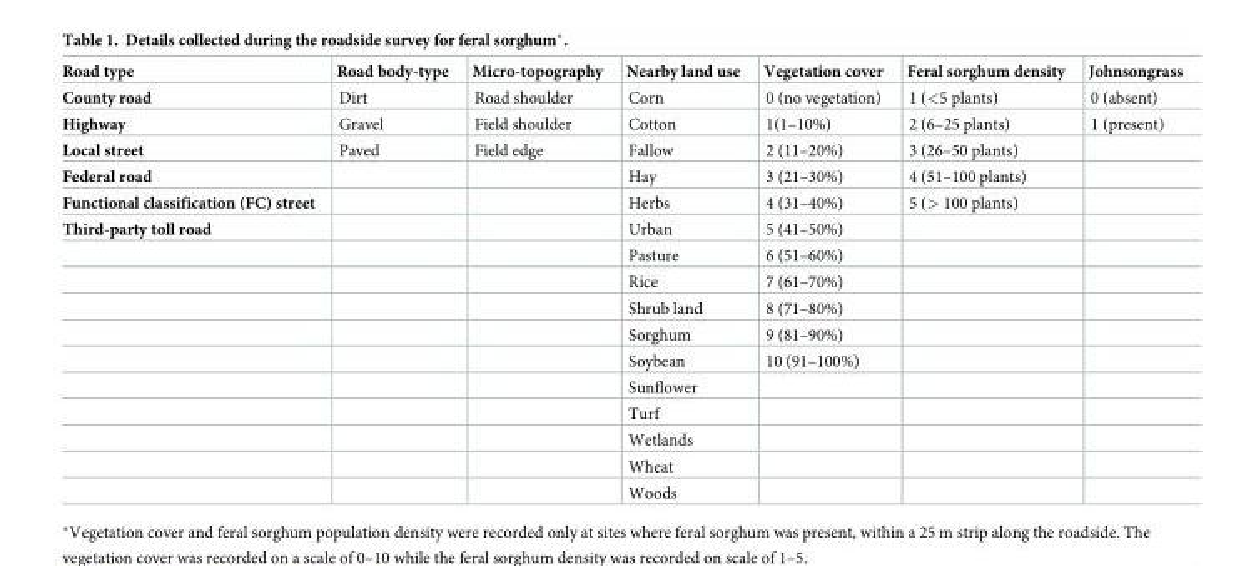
<table><thead><tr><td>Road type</td><td>Road body-type</td><td>Micro-topography</td><td>Nearby land use</td><td>Vegetation cover</td><td>Feral sorghum density</td><td>Johnsongrass</td></tr></thead><tbody><tr><td>County road</td><td>Dirt</td><td>Road shoulder</td><td>Corn</td><td>0 (no vegetation)</td><td>1 (&lt;5 plants)</td><td>0 (absent)</td></tr><tr><td>Highway</td><td>Gravel</td><td>Field shoulder</td><td>Cotton</td><td>1(1–10%)</td><td>2 (6–25 plants)</td><td>1 (present)</td></tr><tr><td>Local street</td><td>Paved</td><td>Field edge</td><td>Fallow</td><td>2 (11–20%)</td><td>3 (26–50 plants)</td><td></td></tr><tr><td>Federal road</td><td></td><td></td><td>Hay</td><td>3 (21–30%)</td><td>4 (51–100 plants)</td><td></td></tr><tr><td>Functional classification (FC) street</td><td></td><td></td><td>Herbs</td><td>4 (31–40%)</td><td>5 (&gt; 100 plants)</td><td></td></tr><tr><td rowspan="11">Third-party toll road</td><td></td><td></td><td>Urban</td><td>5 (41–50%)</td><td></td><td></td></tr><tr><td></td><td></td><td>Pasture</td><td>6 (51–60%)</td><td></td><td></td></tr><tr><td></td><td></td><td>Rice</td><td>7 (61–70%)</td><td></td><td></td></tr><tr><td></td><td></td><td>Shrub land</td><td>8 (71–80%)</td><td></td><td></td></tr><tr><td></td><td></td><td>Sorghum</td><td>9 (81–90%)</td><td></td><td></td></tr><tr><td></td><td></td><td>Soybean</td><td>10 (91–100%)</td><td></td><td></td></tr><tr><td></td><td></td><td>Sunflower</td><td></td><td></td><td></td></tr><tr><td></td><td></td><td>Turf</td><td></td><td></td><td></td></tr><tr><td></td><td></td><td>Wetlands</td><td></td><td></td><td></td></tr><tr><td></td><td></td><td>Wheat</td><td></td><td></td><td></td></tr><tr><td></td><td></td><td>Woods</td><td></td><td></td><td></td></tr></tbody></table>